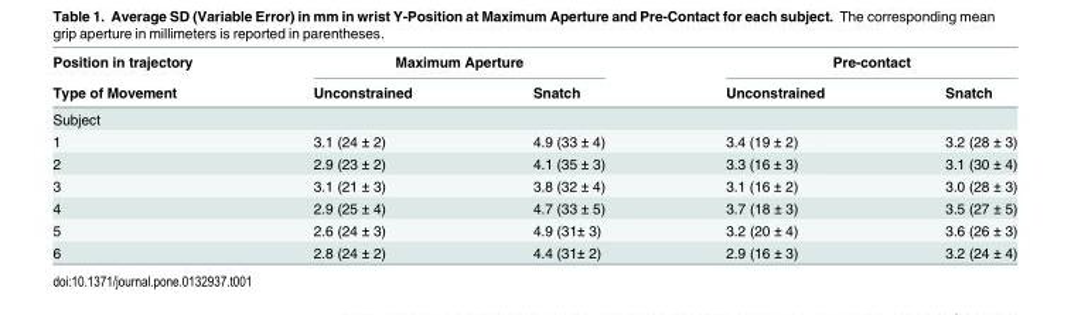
<table><thead><tr><td rowspan="2">Position in trajectory Type of Movement</td><td colspan="2">Maximum Aperture</td><td colspan="2">Pre-contact</td></tr><tr><td>Unconstrained</td><td>Snatch</td><td>Unconstrained</td><td>Snatch</td></tr></thead><tbody><tr><td colspan="5">Subject</td></tr><tr><td>1</td><td>3.1 (24 ± 2)</td><td>4.9 (33 ± 4)</td><td>3.4 (19 ± 2)</td><td>3.2 (28 ± 3)</td></tr><tr><td>2</td><td>2.9 (23 ± 2)</td><td>4.1 (35 ± 3)</td><td>3.3 (16 ± 3)</td><td>3.1 (30 ± 4)</td></tr><tr><td>3</td><td>3.1 (21 ± 3)</td><td>3.8 (32 ± 4)</td><td>3.1 (16 ± 2)</td><td>3.0 (28 ± 3)</td></tr><tr><td>4</td><td>2.9 (25 ± 4)</td><td>4.7 (33 ± 5)</td><td>3.7 (18 ± 3)</td><td>3.5 (27 ± 5)</td></tr><tr><td>5</td><td>2.6 (24 ± 3)</td><td>4.9 (31± 3)</td><td>3.2 (20 ± 4)</td><td>3.6 (26 ± 3)</td></tr><tr><td>6</td><td>2.8 (24 ± 2)</td><td>4.4 (31± 2)</td><td>2.9 (16 ± 3)</td><td>3.2 (24 ± 4)</td></tr></tbody></table>